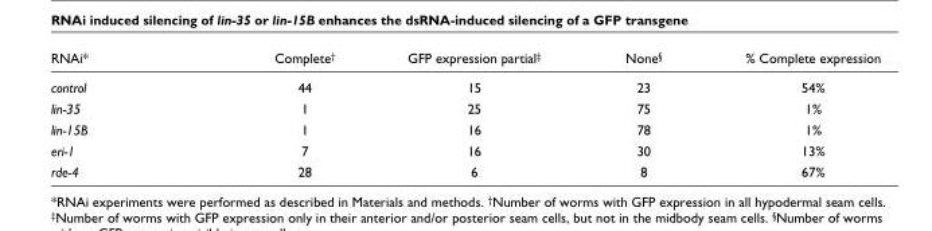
<table><thead><tr><td>RNAi*</td><td>Complete†</td><td>GFP expression partial‡</td><td>None§</td><td>% Complete expression</td></tr></thead><tbody><tr><td>control</td><td>44</td><td>15</td><td>23</td><td>54%</td></tr><tr><td>lin-35</td><td>1</td><td>25</td><td>75</td><td>1%</td></tr><tr><td>lin-15B</td><td>1</td><td>16</td><td>78</td><td>1%</td></tr><tr><td>eri-1</td><td>7</td><td>16</td><td>30</td><td>13%</td></tr><tr><td>rde-4</td><td>28</td><td>6</td><td>8</td><td>67%</td></tr></tbody></table>